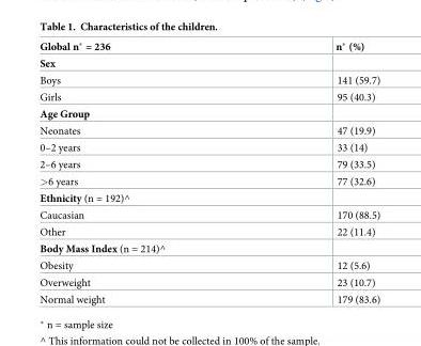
<table><thead><tr><td>Global n* = 236</td><td>n* (%)</td></tr></thead><tbody><tr><td colspan="2">Sex</td></tr><tr><td>Boys</td><td>141 (59.7)</td></tr><tr><td>Girls</td><td>95 (40.3)</td></tr><tr><td colspan="2">Age Group</td></tr><tr><td>Neonates</td><td>47 (19.9)</td></tr><tr><td>0–2 years</td><td>33 (14)</td></tr><tr><td>2–6 years</td><td>79 (33.5)</td></tr><tr><td>&gt;6 years</td><td>77 (32.6)</td></tr><tr><td colspan="2">Ethnicity (n = 192)^</td></tr><tr><td>Caucasian</td><td>170 (88.5)</td></tr><tr><td>Other</td><td>22 (11.4)</td></tr><tr><td colspan="2">Body Mass Index (n = 214)^</td></tr><tr><td>Obesity</td><td>12 (5.6)</td></tr><tr><td>Overweight</td><td>23 (10.7)</td></tr><tr><td>Normal weight</td><td>179 (83.6)</td></tr></tbody></table>